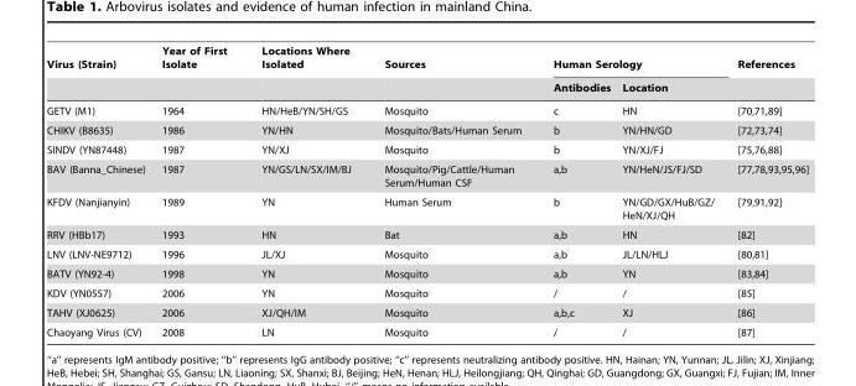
<table><thead><tr><td rowspan="2">Virus (Strain)</td><td rowspan="2">Year of First Isolate</td><td rowspan="2">Locations Where Isolated</td><td rowspan="2">Sources</td><td colspan="2">Human Serology</td><td rowspan="2">References</td></tr><tr><td>Antibodies</td><td>Location</td></tr></thead><tbody><tr><td>GETV (M1)</td><td>1964</td><td>HN/HeB/YN/SH/GS</td><td>Mosquito</td><td>c</td><td>HN</td><td>[70,71,89]</td></tr><tr><td>CHIKV (B8635)</td><td>1986</td><td>YN/HN</td><td>Mosquito/Bats/Human Serum</td><td>b</td><td>YN/HN/GD</td><td>[72,73,74]</td></tr><tr><td>SINDV (YN87448)</td><td>1987</td><td>YN/XJ</td><td>Mosquito</td><td>b</td><td>YN/XJ/FJ</td><td>[75,76,88]</td></tr><tr><td>BAV (Banna_Chinese)</td><td>1987</td><td>YN/GS/LN/SX/IM/BJ</td><td>Mosquito/Pig/Cattle/Human Serum/Human CSF</td><td>a,b</td><td>YN/HeN/JS/FJ/SD</td><td>[77,78,93,95,96]</td></tr><tr><td>KFDV (Nanjianyin)</td><td>1989</td><td>YN</td><td>Human Serum</td><td>b</td><td>YN/GD/GX/HuB/GZ/ HeN/XJ/QH</td><td>[79,91,92]</td></tr><tr><td>RRV (HBb17)</td><td>1993</td><td>HN</td><td>Bat</td><td>a,b</td><td>HN</td><td>[82]</td></tr><tr><td>LNV (LNV-NE9712)</td><td>1996</td><td>JL/XJ</td><td>Mosquito</td><td>a,b</td><td>JL/LN/HLJ</td><td>[80,81]</td></tr><tr><td>BATV (YN92-4)</td><td>1998</td><td>YN</td><td>Mosquito</td><td>a,b</td><td>YN</td><td>[83,84]</td></tr><tr><td>KDV (YN0557)</td><td>2006</td><td>YN</td><td>Mosquito</td><td>/</td><td>/</td><td>[85]</td></tr><tr><td>TAHV (XJ0625)</td><td>2006</td><td>XJ/QH/IM</td><td>Mosquito</td><td>a,b,c</td><td>XJ</td><td>[86]</td></tr><tr><td>Chaoyang Virus (CV)</td><td>2008</td><td>LN</td><td>Mosquito</td><td>/</td><td>/</td><td>[87]</td></tr></tbody></table>